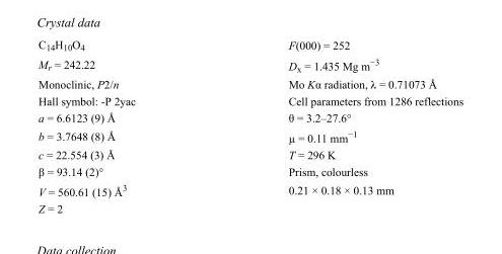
<table><tbody><tr><td>C<sub>14</sub>H<sub>10</sub>O<sub>4</sub></td><td>F(000) = 252</td></tr><tr><td>M<sub>r</sub> = 242.22</td><td>D<sub>x</sub> = 1.435 Mg m<sup>−3</sup></td></tr><tr><td>Monoclinic, P2/n</td><td>Mo Kα radiation, λ = 0.71073 Å</td></tr><tr><td>Hall symbol: -P 2yac</td><td>Cell parameters from 1286 reflections</td></tr><tr><td>a = 6.6123 (9) Å</td><td>θ = 3.2–27.6°</td></tr><tr><td>b = 3.7648 (8) Å</td><td>µ = 0.11 mm<sup>−1</sup></td></tr><tr><td>c = 22.554 (3) Å</td><td>T = 296 K</td></tr><tr><td>β = 93.14 (2)°</td><td>Prism, colourless</td></tr><tr><td>V = 560.61 (15) Å<sup>3</sup></td><td>0.21 × 0.18 × 0.13 mm</td></tr><tr><td>Z = 2</td><td></td></tr></tbody></table>